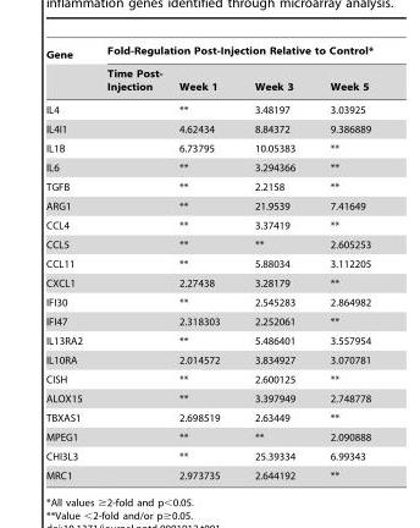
<table><thead><tr><td rowspan="2">Gene</td><td colspan="4">Fold-Regulation Post-Injection Relative to Control*</td></tr><tr><td>Time Post- Injection</td><td>Week 1</td><td>Week 3</td><td>Week 5</td></tr></thead><tbody><tr><td>IL4</td><td></td><td>**</td><td>3.48197</td><td>3.03925</td></tr><tr><td>IL4I1</td><td></td><td>4.62434</td><td>8.84372</td><td>9.386889</td></tr><tr><td>IL1B</td><td></td><td>6.73795</td><td>10.05383</td><td>**</td></tr><tr><td>IL6</td><td></td><td>**</td><td>3.294366</td><td>**</td></tr><tr><td>TGFB</td><td></td><td>**</td><td>2.2158</td><td>**</td></tr><tr><td>ARG1</td><td></td><td>**</td><td>21.9539</td><td>7.41649</td></tr><tr><td>CCL4</td><td></td><td>**</td><td>3.37419</td><td>**</td></tr><tr><td>CCL5</td><td></td><td>**</td><td>**</td><td>2.605253</td></tr><tr><td>CCL11</td><td></td><td>**</td><td>5.88034</td><td>3.112205</td></tr><tr><td>CXCL1</td><td></td><td>2.27438</td><td>3.28179</td><td>**</td></tr><tr><td>IFI30</td><td></td><td>**</td><td>2.545283</td><td>2.864982</td></tr><tr><td>IFI47</td><td></td><td>2.318303</td><td>2.252061</td><td>**</td></tr><tr><td colspan="2">IL13RA2</td><td>**</td><td>5.486401</td><td>3.557954</td></tr><tr><td colspan="2">IL10RA</td><td>2.014572</td><td>3.834927</td><td>3.070781</td></tr><tr><td>CISH</td><td></td><td>**</td><td>2.600125</td><td>**</td></tr><tr><td colspan="2">ALOX15</td><td>**</td><td>3.397949</td><td>2.748778</td></tr><tr><td colspan="2">TBXAS1</td><td>2.698519</td><td>2.63449</td><td>**</td></tr><tr><td colspan="2">MPEG1</td><td>**</td><td>**</td><td>2.090888</td></tr><tr><td colspan="2">CHI3L3</td><td>**</td><td>25.39334</td><td>6.99343</td></tr><tr><td>MRC1</td><td></td><td>2.973735</td><td>2.644192</td><td>**</td></tr></tbody></table>